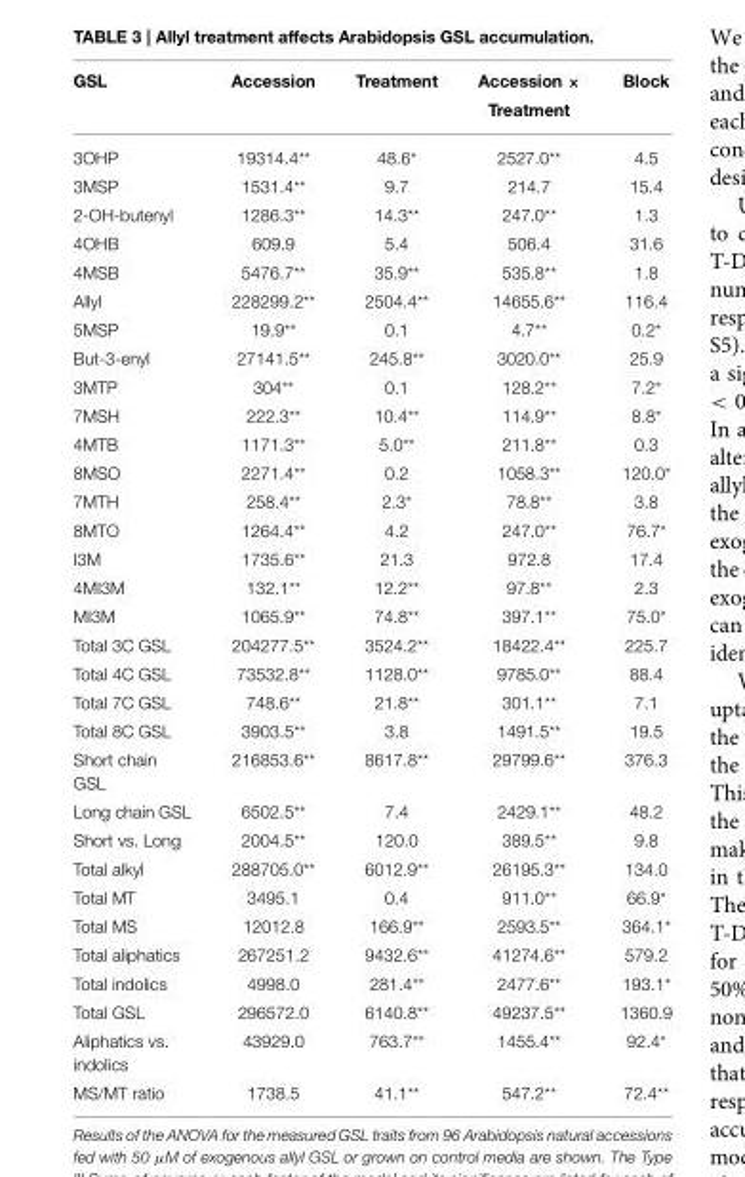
<table><thead><tr><td>GSL</td><td>Accession</td><td>Treatment</td><td>Accession × Treatment</td><td>Block</td></tr></thead><tbody><tr><td>3OHP</td><td>19314.4**</td><td>48.6*</td><td>2527.0**</td><td>4.5</td></tr><tr><td>3MSP</td><td>1531.4**</td><td>9.7</td><td>214.7</td><td>15.4</td></tr><tr><td>2-OH-butenyl</td><td>1286.3**</td><td>14.3**</td><td>247.0**</td><td>1.3</td></tr><tr><td>4OHB</td><td>609.9</td><td>5.4</td><td>506.4</td><td>31.6</td></tr><tr><td>4MSB</td><td>5476.7**</td><td>35.9**</td><td>535.8**</td><td>1.8</td></tr><tr><td>Allyl</td><td>228299.2**</td><td>2504.4**</td><td>14655.6**</td><td>116.4</td></tr><tr><td>5MSP</td><td>19.9**</td><td>0.1</td><td>4.7**</td><td>0.2*</td></tr><tr><td>But-3-enyl</td><td>27141.5**</td><td>245.8**</td><td>3020.0**</td><td>25.9</td></tr><tr><td>3MTP</td><td>304**</td><td>0.1</td><td>128.2**</td><td>7.2*</td></tr><tr><td>7MSH</td><td>222.3**</td><td>10.4**</td><td>114.9**</td><td>8.8*</td></tr><tr><td>4MTB</td><td>1171.3**</td><td>5.0**</td><td>211.8**</td><td>0.3</td></tr><tr><td>8MSO</td><td>2271.4**</td><td>0.2</td><td>1058.3**</td><td>120.0*</td></tr><tr><td>7MTH</td><td>258.4**</td><td>2.3*</td><td>78.8**</td><td>3.8</td></tr><tr><td>8MTO</td><td>1264.4**</td><td>4.2</td><td>247.0**</td><td>76.7*</td></tr><tr><td>I3M</td><td>1735.6**</td><td>21.3</td><td>972.8</td><td>17.4</td></tr><tr><td>4MI3M</td><td>132.1**</td><td>12.2**</td><td>97.8**</td><td>2.3</td></tr><tr><td>MI3M</td><td>1065.9**</td><td>74.8**</td><td>397.1**</td><td>75.0*</td></tr><tr><td>Total 3C GSL</td><td>204277.5**</td><td>3524.2**</td><td>18422.4**</td><td>225.7</td></tr><tr><td>Total 4C GSL</td><td>73532.8**</td><td>1128.0**</td><td>9785.0**</td><td>88.4</td></tr><tr><td>Total 7C GSL</td><td>748.6**</td><td>21.8**</td><td>301.1**</td><td>7.1</td></tr><tr><td>Total 8C GSL</td><td>3903.5**</td><td>3.8</td><td>1491.5**</td><td>19.5</td></tr><tr><td>Short chain GSL</td><td>216853.6**</td><td>8617.8**</td><td>29799.6**</td><td>376.3</td></tr><tr><td>Long chain GSL</td><td>6502.5**</td><td>7.4</td><td>2429.1**</td><td>48.2</td></tr><tr><td>Short vs. Long</td><td>2004.5**</td><td>120.0</td><td>389.5**</td><td>9.8</td></tr><tr><td>Total alkyl</td><td>288705.0**</td><td>6012.9**</td><td>26195.3**</td><td>134.0</td></tr><tr><td>Total MT</td><td>3495.1</td><td>0.4</td><td>911.0**</td><td>66.9*</td></tr><tr><td>Total MS</td><td>12012.8</td><td>166.9**</td><td>2593.5**</td><td>364.1*</td></tr><tr><td>Total aliphatics</td><td>267251.2</td><td>9432.6**</td><td>41274.6**</td><td>579.2</td></tr><tr><td>Total indolics</td><td>4998.0</td><td>281.4**</td><td>2477.6**</td><td>193.1*</td></tr><tr><td>Total GSL</td><td>296572.0</td><td>6140.8**</td><td>49237.5**</td><td>1360.9</td></tr><tr><td>Aliphatics vs. indolics</td><td>43929.0</td><td>763.7**</td><td>1455.4**</td><td>92.4*</td></tr><tr><td>MS/MT ratio</td><td>1738.5</td><td>41.1**</td><td>547.2**</td><td>72.4**</td></tr></tbody></table>